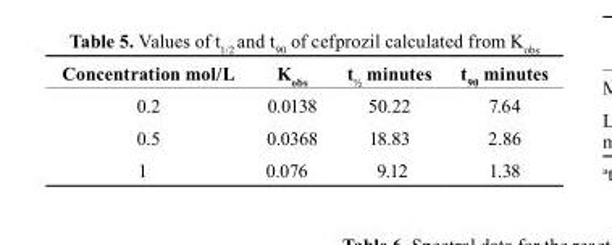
<table><thead><tr><td>concentration mol/L</td><td>Kobs</td><td>t½ minutes</td><td>t90 minutes</td></tr></thead><tbody><tr><td>0.2</td><td>0.0138</td><td>50.22</td><td>7.64</td></tr><tr><td>0.5</td><td>0.0368</td><td>18.83</td><td>2.86</td></tr><tr><td>1</td><td>0.076</td><td>9.12</td><td>1.38</td></tr></tbody></table>